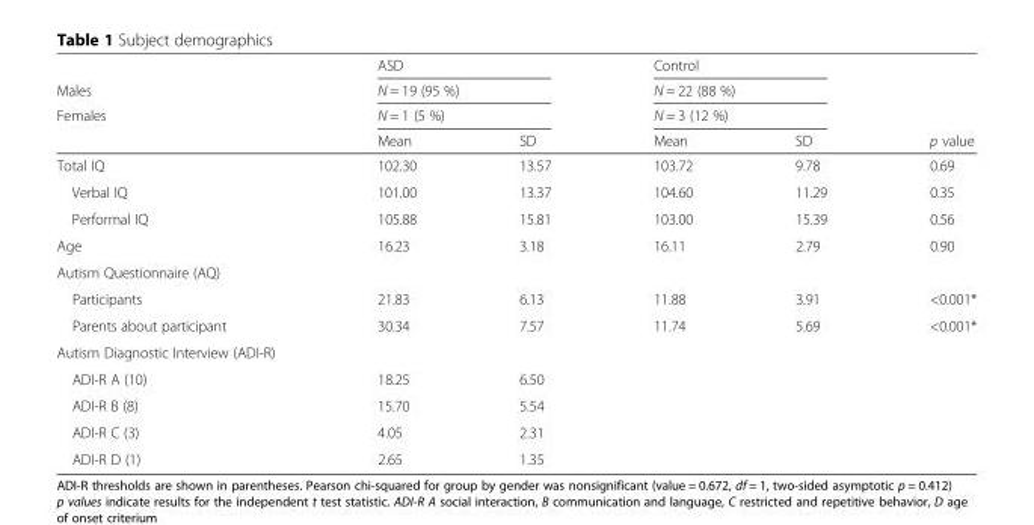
<table><thead><tr><td rowspan="4">Males Females</td><td rowspan="3" colspan="2">ASD N = 19 (95 %) N = 1 (5 %)</td><td rowspan="3" colspan="2">Control N = 22 (88 %) N = 3 (12 %)</td><td rowspan="4">p value</td></tr><tr></tr><tr></tr><tr><td>Mean</td><td>SD</td><td>Mean</td><td>SD</td></tr></thead><tbody><tr><td>Total IQ</td><td>102.30</td><td>13.57</td><td>103.72</td><td>9.78</td><td>0.69</td></tr><tr><td>Verbal IQ</td><td>101.00</td><td>13.37</td><td>104.60</td><td>11.29</td><td>0.35</td></tr><tr><td>Performal IQ</td><td>105.88</td><td>15.81</td><td>103.00</td><td>15.39</td><td>0.56</td></tr><tr><td>Age</td><td>16.23</td><td>3.18</td><td>16.11</td><td>2.79</td><td>0.90</td></tr><tr><td colspan="6">Autism Questionnaire (AQ)</td></tr><tr><td>Participants</td><td>21.83</td><td>6.13</td><td>11.88</td><td>3.91</td><td>&lt;0.001*</td></tr><tr><td>Parents about participant</td><td>30.34</td><td>7.57</td><td>11.74</td><td>5.69</td><td>&lt;0.001*</td></tr><tr><td colspan="6">Autism Diagnostic Interview (ADI-R)</td></tr><tr><td>ADI-R A (10)</td><td>18.25</td><td>6.50</td><td></td><td></td><td></td></tr><tr><td>ADI-R B (8)</td><td>15.70</td><td>5.54</td><td></td><td></td><td></td></tr><tr><td>ADI-R C (3)</td><td>4.05</td><td>2.31</td><td></td><td></td><td></td></tr><tr><td>ADI-R D (1)</td><td>2.65</td><td>1.35</td><td></td><td></td><td></td></tr></tbody></table>